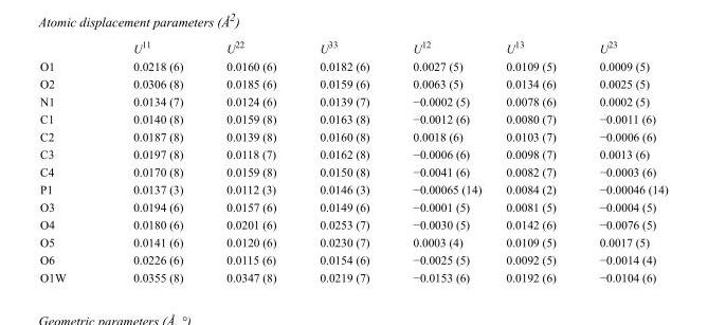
<table><thead><tr><td></td><td>U<sup>11</sup></td><td>U<sup>22</sup></td><td>U<sup>33</sup></td><td>U<sup>12</sup></td><td>U<sup>13</sup></td><td>U<sup>23</sup></td></tr></thead><tbody><tr><td>O1</td><td>0.0218 (6)</td><td>0.0160 (6)</td><td>0.0182 (6)</td><td>0.0027 (5)</td><td>0.0109 (5)</td><td>0.0009 (5)</td></tr><tr><td>O2</td><td>0.0306 (8)</td><td>0.0185 (6)</td><td>0.0159 (6)</td><td>0.0063 (5)</td><td>0.0134 (6)</td><td>0.0025 (5)</td></tr><tr><td>N1</td><td>0.0134 (7)</td><td>0.0124 (6)</td><td>0.0139 (7)</td><td>−0.0002 (5)</td><td>0.0078 (6)</td><td>0.0002 (5)</td></tr><tr><td>C1</td><td>0.0140 (8)</td><td>0.0159 (8)</td><td>0.0163 (8)</td><td>−0.0012 (6)</td><td>0.0080 (7)</td><td>−0.0011 (6)</td></tr><tr><td>C2</td><td>0.0187 (8)</td><td>0.0139 (8)</td><td>0.0160 (8)</td><td>0.0018 (6)</td><td>0.0103 (7)</td><td>−0.0006 (6)</td></tr><tr><td>C3</td><td>0.0197 (8)</td><td>0.0118 (7)</td><td>0.0162 (8)</td><td>−0.0006 (6)</td><td>0.0098 (7)</td><td>0.0013 (6)</td></tr><tr><td>C4</td><td>0.0170 (8)</td><td>0.0159 (8)</td><td>0.0150 (8)</td><td>−0.0041 (6)</td><td>0.0082 (7)</td><td>−0.0003 (6)</td></tr><tr><td>P1</td><td>0.0137 (3)</td><td>0.0112 (3)</td><td>0.0146 (3)</td><td>−0.00065 (14)</td><td>0.0084 (2)</td><td>−0.00046 (14)</td></tr><tr><td>O3</td><td>0.0194 (6)</td><td>0.0157 (6)</td><td>0.0149 (6)</td><td>−0.0001 (5)</td><td>0.0081 (5)</td><td>−0.0004 (5)</td></tr><tr><td>O4</td><td>0.0180 (6)</td><td>0.0201 (6)</td><td>0.0253 (7)</td><td>−0.0030 (5)</td><td>0.0142 (6)</td><td>−0.0076 (5)</td></tr><tr><td>O5</td><td>0.0141 (6)</td><td>0.0120 (6)</td><td>0.0230 (7)</td><td>0.0003 (4)</td><td>0.0109 (5)</td><td>0.0017 (5)</td></tr><tr><td>O6</td><td>0.0226 (6)</td><td>0.0115 (6)</td><td>0.0154 (6)</td><td>−0.0025 (5)</td><td>0.0092 (5)</td><td>−0.0014 (4)</td></tr><tr><td>O1W</td><td>0.0355 (8)</td><td>0.0347 (8)</td><td>0.0219 (7)</td><td>−0.0153 (6)</td><td>0.0192 (6)</td><td>−0.0104 (6)</td></tr></tbody></table>